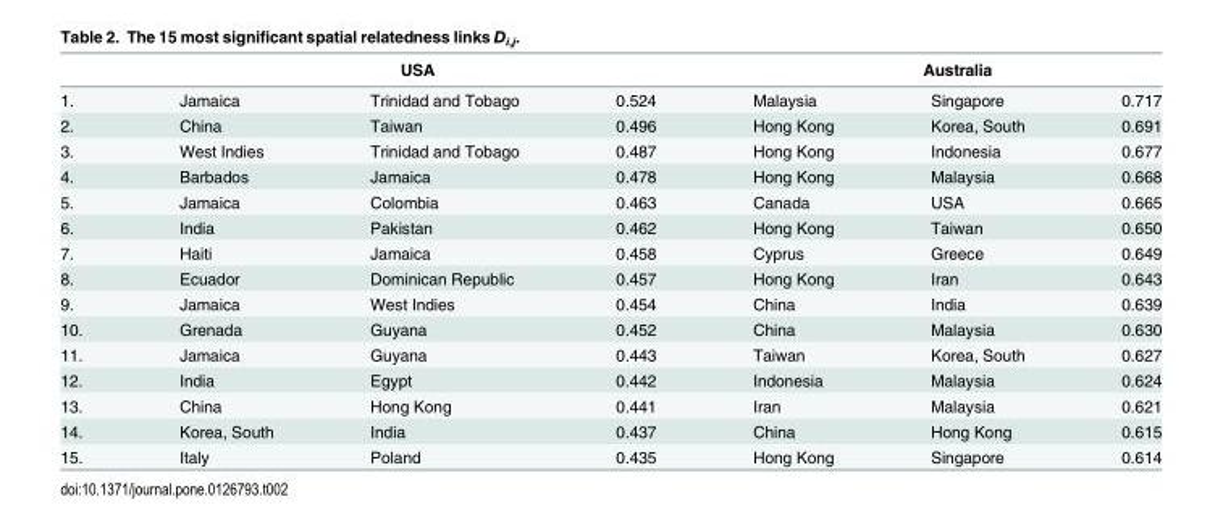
<table><thead><tr><td rowspan="2">1.</td><td colspan="3">USA</td><td colspan="3">Australia</td></tr><tr><td>Jamaica</td><td>Trinidad and Tobago</td><td>0.524</td><td>Malaysia</td><td>Singapore</td><td>0.717</td></tr></thead><tbody><tr><td>2.</td><td>China</td><td>Taiwan</td><td>0.496</td><td>Hong Kong</td><td>Korea, South</td><td>0.691</td></tr><tr><td>3.</td><td>West Indies</td><td>Trinidad and Tobago</td><td>0.487</td><td>Hong Kong</td><td>Indonesia</td><td>0.677</td></tr><tr><td>4.</td><td>Barbados</td><td>Jamaica</td><td>0.478</td><td>Hong Kong</td><td>Malaysia</td><td>0.668</td></tr><tr><td>5.</td><td>Jamaica</td><td>Colombia</td><td>0.463</td><td>Canada</td><td>USA</td><td>0.665</td></tr><tr><td>6.</td><td>India</td><td>Pakistan</td><td>0.462</td><td>Hong Kong</td><td>Taiwan</td><td>0.650</td></tr><tr><td>7.</td><td>Haiti</td><td>Jamaica</td><td>0.458</td><td>Cyprus</td><td>Greece</td><td>0.649</td></tr><tr><td>8.</td><td>Ecuador</td><td>Dominican Republic</td><td>0.457</td><td>Hong Kong</td><td>Iran</td><td>0.643</td></tr><tr><td>9.</td><td>Jamaica</td><td>West Indies</td><td>0.454</td><td>China</td><td>India</td><td>0.639</td></tr><tr><td>10.</td><td>Grenada</td><td>Guyana</td><td>0.452</td><td>China</td><td>Malaysia</td><td>0.630</td></tr><tr><td>11.</td><td>Jamaica</td><td>Guyana</td><td>0.443</td><td>Taiwan</td><td>Korea, South</td><td>0.627</td></tr><tr><td>12.</td><td>India</td><td>Egypt</td><td>0.442</td><td>Indonesia</td><td>Malaysia</td><td>0.624</td></tr><tr><td>13.</td><td>China</td><td>Hong Kong</td><td>0.441</td><td>Iran</td><td>Malaysia</td><td>0.621</td></tr><tr><td>14.</td><td>Korea, South</td><td>India</td><td>0.437</td><td>China</td><td>Hong Kong</td><td>0.615</td></tr><tr><td>15.</td><td>Italy</td><td>Poland</td><td>0.435</td><td>Hong Kong</td><td>Singapore</td><td>0.614</td></tr></tbody></table>